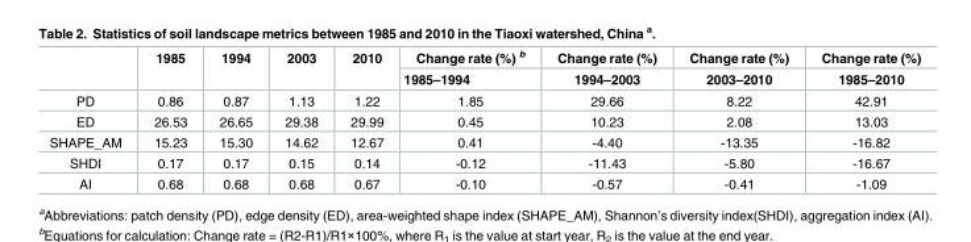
<table><thead><tr><td rowspan="2"></td><td rowspan="2">1985</td><td rowspan="2">1994</td><td rowspan="2">2003</td><td rowspan="2">2010</td><td rowspan="2">Change rate (%) <sup>b</sup> 1985–1994</td><td rowspan="2">Change rate (%) 1994–2003</td><td rowspan="2">Change rate (%) 2003–2010</td><td rowspan="2">Change rate (%) 1985–2010</td></tr><tr></tr></thead><tbody><tr><td>PD</td><td>0.86</td><td>0.87</td><td>1.13</td><td>1.22</td><td>1.85</td><td>29.66</td><td>8.22</td><td>42.91</td></tr><tr><td>ED</td><td>26.53</td><td>26.65</td><td>29.38</td><td>29.99</td><td>0.45</td><td>10.23</td><td>2.08</td><td>13.03</td></tr><tr><td>SHAPE_AM</td><td>15.23</td><td>15.30</td><td>14.62</td><td>12.67</td><td>0.41</td><td>-4.40</td><td>-13.35</td><td>-16.82</td></tr><tr><td>SHDI</td><td>0.17</td><td>0.17</td><td>0.15</td><td>0.14</td><td>-0.12</td><td>-11.43</td><td>-5.80</td><td>-16.67</td></tr><tr><td>AI</td><td>0.68</td><td>0.68</td><td>0.68</td><td>0.67</td><td>-0.10</td><td>-0.57</td><td>-0.41</td><td>-1.09</td></tr></tbody></table>